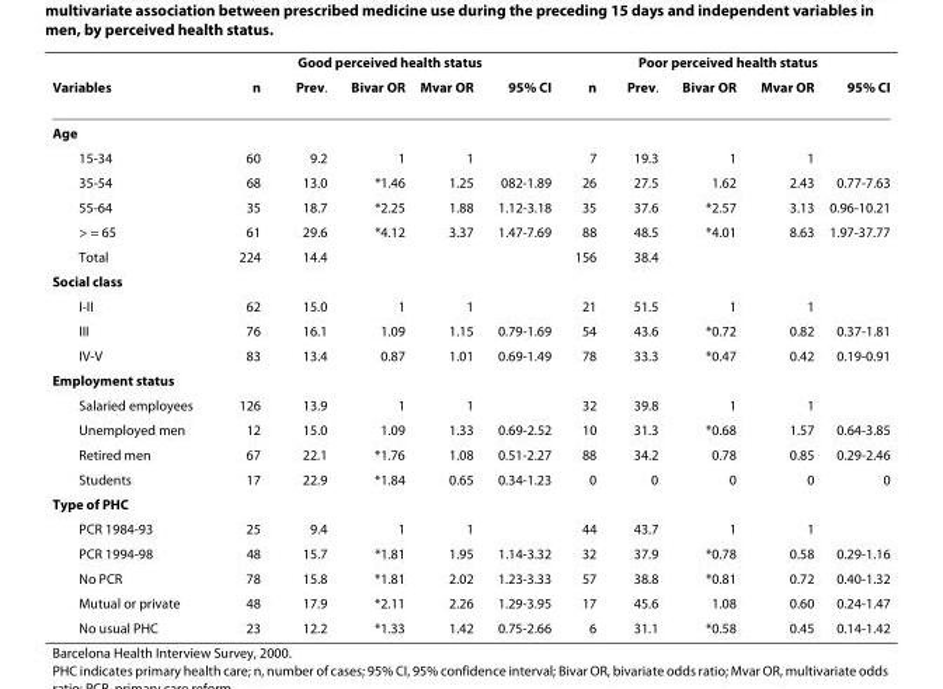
<table><thead><tr><td rowspan="2">Variables</td><td colspan="5">Good perceived health status</td><td colspan="5">Poor perceived health status</td></tr><tr><td>n</td><td>Prev.</td><td>Bivar OR</td><td>Mvar OR</td><td>95% CI</td><td>n</td><td>Prev.</td><td>Bivar OR</td><td>Mvar OR</td><td>95% CI</td></tr></thead><tbody><tr><td colspan="11">Age</td></tr><tr><td>15-34</td><td>60</td><td>9.2</td><td>1</td><td>1</td><td></td><td>7</td><td>19.3</td><td>1</td><td>1</td><td></td></tr><tr><td>35-54</td><td>68</td><td>13.0</td><td>*1.46</td><td>1.25</td><td>082-1.89</td><td>26</td><td>27.5</td><td>1.62</td><td>2.43</td><td>0.77-7.63</td></tr><tr><td>55-64</td><td>35</td><td>18.7</td><td>*2.25</td><td>1.88</td><td>1.12-3.18</td><td>35</td><td>37.6</td><td>*2.57</td><td>3.13</td><td>0.96-10.21</td></tr><tr><td>&gt; = 65</td><td>61</td><td>29.6</td><td>*4.12</td><td>3.37</td><td>1.47-7.69</td><td>88</td><td>48.5</td><td>*4.01</td><td>8.63</td><td>1.97-37.77</td></tr><tr><td>Total</td><td>224</td><td>14.4</td><td></td><td></td><td></td><td>156</td><td>38.4</td><td></td><td></td><td></td></tr><tr><td colspan="11">Social class</td></tr><tr><td>I-II</td><td>62</td><td>15.0</td><td>1</td><td>1</td><td></td><td>21</td><td>51.5</td><td>1</td><td>1</td><td></td></tr><tr><td>III</td><td>76</td><td>16.1</td><td>1.09</td><td>1.15</td><td>0.79-1.69</td><td>54</td><td>43.6</td><td>*0.72</td><td>0.82</td><td>0.37-1.81</td></tr><tr><td>IV-V</td><td>83</td><td>13.4</td><td>0.87</td><td>1.01</td><td>0.69-1.49</td><td>78</td><td>33.3</td><td>*0.47</td><td>0.42</td><td>0.19-0.91</td></tr><tr><td colspan="11">Employment status</td></tr><tr><td>Salaried employees</td><td>126</td><td>13.9</td><td>1</td><td>1</td><td></td><td>32</td><td>39.8</td><td>1</td><td>1</td><td></td></tr><tr><td>Unemployed men</td><td>12</td><td>15.0</td><td>1.09</td><td>1.33</td><td>0.69-2.52</td><td>10</td><td>31.3</td><td>*0.68</td><td>1.57</td><td>0.64-3.85</td></tr><tr><td>Retired men</td><td>67</td><td>22.1</td><td>*1.76</td><td>1.08</td><td>0.51-2.27</td><td>88</td><td>34.2</td><td>0.78</td><td>0.85</td><td>0.29-2.46</td></tr><tr><td>Students</td><td>17</td><td>22.9</td><td>*1.84</td><td>0.65</td><td>0.34-1.23</td><td>0</td><td>0</td><td>0</td><td>0</td><td>0</td></tr><tr><td colspan="11">Type of PHC</td></tr><tr><td>PCR 1984-93</td><td>25</td><td>9.4</td><td>1</td><td>1</td><td></td><td>44</td><td>43.7</td><td>1</td><td>1</td><td></td></tr><tr><td>PCR 1994-98</td><td>48</td><td>15.7</td><td>*1.81</td><td>1.95</td><td>1.14-3.32</td><td>32</td><td>37.9</td><td>*0.78</td><td>0.58</td><td>0.29-1.16</td></tr><tr><td>No PCR</td><td>78</td><td>15.8</td><td>*1.81</td><td>2.02</td><td>1.23-3.33</td><td>57</td><td>38.8</td><td>*0.81</td><td>0.72</td><td>0.40-1.32</td></tr><tr><td>Mutual or private</td><td>48</td><td>17.9</td><td>*2.11</td><td>2.26</td><td>1.29-3.95</td><td>17</td><td>45.6</td><td>1.08</td><td>0.60</td><td>0.24-1.47</td></tr><tr><td>No usual PHC</td><td>23</td><td>12.2</td><td>*1.33</td><td>1.42</td><td>0.75-2.66</td><td>6</td><td>31.1</td><td>*0.58</td><td>0.45</td><td>0.14-1.42</td></tr></tbody></table>